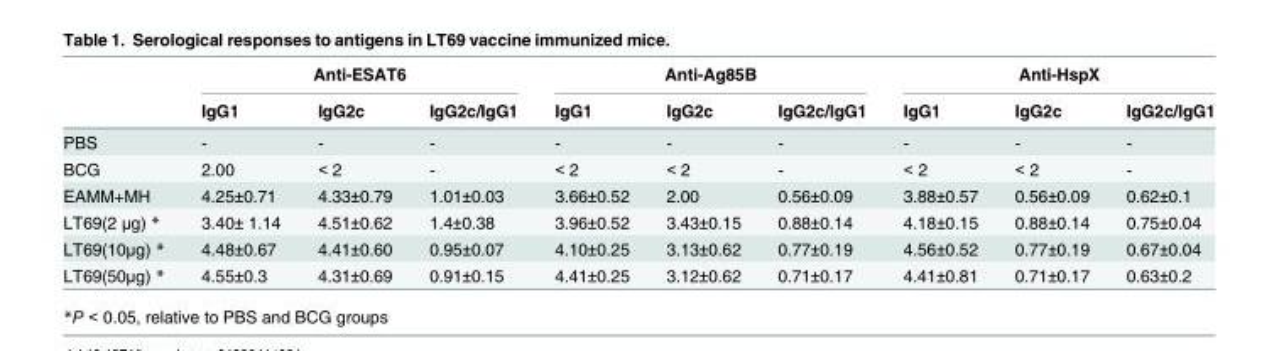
<table><thead><tr><td rowspan="2"></td><td colspan="3">Anti-ESAT6</td><td colspan="3">Anti-Ag85B</td><td colspan="3">Anti-HspX</td></tr><tr><td>IgG1</td><td>IgG2c</td><td>IgG2c/IgG1</td><td>IgG1</td><td>IgG2c</td><td>IgG2c/IgG1</td><td>IgG1</td><td>IgG2c</td><td>IgG2c/IgG1</td></tr></thead><tbody><tr><td>PBS</td><td>-</td><td>-</td><td>-</td><td>-</td><td>-</td><td>-</td><td>-</td><td>-</td><td>-</td></tr><tr><td>BCG</td><td>2.00</td><td>&lt; 2</td><td>-</td><td>&lt; 2</td><td>&lt; 2</td><td>-</td><td>&lt; 2</td><td>&lt; 2</td><td>-</td></tr><tr><td>EAMM+MH</td><td>4.25±0.71</td><td>4.33±0.79</td><td>1.01±0.03</td><td>3.66±0.52</td><td>2.00</td><td>0.56±0.09</td><td>3.88±0.57</td><td>0.56±0.09</td><td>0.62±0.1</td></tr><tr><td>LT69(2 μg) *</td><td>3.40± 1.14</td><td>4.51±0.62</td><td>1.4±0.38</td><td>3.96±0.52</td><td>3.43±0.15</td><td>0.88±0.14</td><td>4.18±0.15</td><td>0.88±0.14</td><td>0.75±0.04</td></tr><tr><td>LT69(10μg) *</td><td>4.48±0.67</td><td>4.41±0.60</td><td>0.95±0.07</td><td>4.10±0.25</td><td>3.13±0.62</td><td>0.77±0.19</td><td>4.56±0.52</td><td>0.77±0.19</td><td>0.67±0.04</td></tr><tr><td>LT69(50μg) *</td><td>4.55±0.3</td><td>4.31±0.69</td><td>0.91±0.15</td><td>4.41±0.25</td><td>3.12±0.62</td><td>0.71±0.17</td><td>4.41±0.81</td><td>0.71±0.17</td><td>0.63±0.2</td></tr></tbody></table>